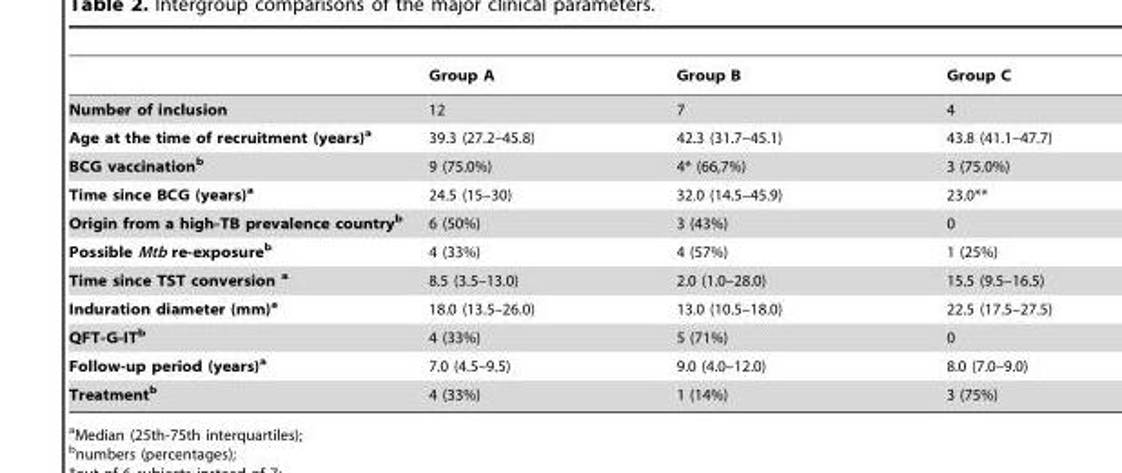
<table><thead><tr><td></td><td>Group A</td><td>Group B</td><td>Group C</td></tr></thead><tbody><tr><td>Number of inclusion</td><td>12</td><td>7</td><td>4</td></tr><tr><td>Age at the time of recruitment (years)a</td><td>39.3 (27.2–45.8)</td><td>42.3 (31.7–45.1)</td><td>43.8 (41.1–47.7)</td></tr><tr><td>BCG vaccinationb</td><td>9 (75.0%)</td><td>4* (66,7%)</td><td>3 (75.0%)</td></tr><tr><td>Time since BCG (years)a</td><td>24.5 (15–30)</td><td>32.0 (14.5–45.9)</td><td>23.0**</td></tr><tr><td>Origin from a high-TB prevalence countryb</td><td>6 (50%)</td><td>3 (43%)</td><td>0</td></tr><tr><td>Possible Mtb re-exposureb</td><td>4 (33%)</td><td>4 (57%)</td><td>1 (25%)</td></tr><tr><td>Time since TST conversion a</td><td>8.5 (3.5–13.0)</td><td>2.0 (1.0–28.0)</td><td>15.5 (9.5–16.5)</td></tr><tr><td>Induration diameter (mm)a</td><td>18.0 (13.5–26.0)</td><td>13.0 (10.5–18.0)</td><td>22.5 (17.5–27.5)</td></tr><tr><td>QFT-G-ITb</td><td>4 (33%)</td><td>5 (71%)</td><td>0</td></tr><tr><td>Follow-up period (years)a</td><td>7.0 (4.5–9.5)</td><td>9.0 (4.0–12.0)</td><td>8.0 (7.0–9.0)</td></tr><tr><td>Treatmentb</td><td>4 (33%)</td><td>1 (14%)</td><td>3 (75%)</td></tr></tbody></table>